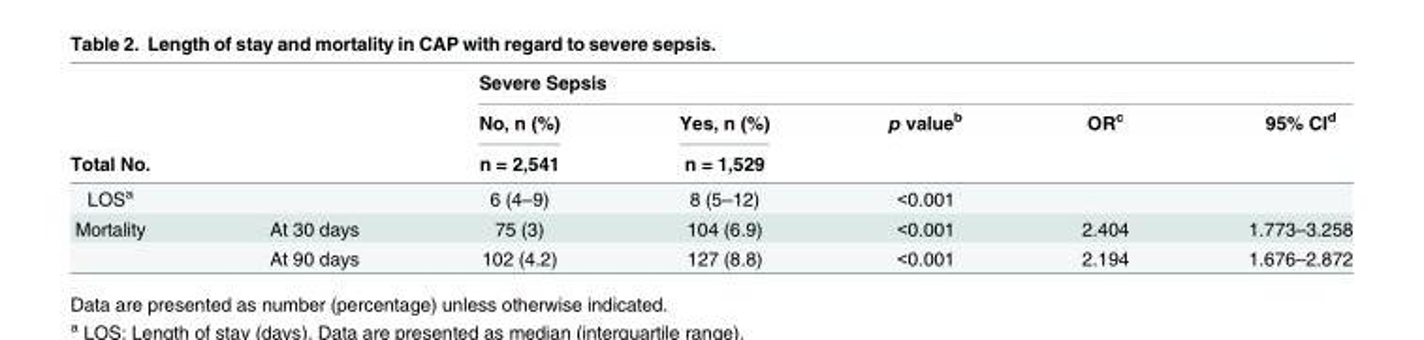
<table><thead><tr><td rowspan="3">Total No.</td><td rowspan="3"></td><td colspan="5">Severe Sepsis</td></tr><tr><td rowspan="2">No, n (%) n = 2,541</td><td rowspan="2">Yes, n (%) n = 1,529</td><td rowspan="2">p value<sup>b</sup></td><td rowspan="2">OR<sup>c</sup></td><td rowspan="2">95% CI<sup>d</sup></td></tr><tr></tr></thead><tbody><tr><td>LOS<sup>a</sup></td><td></td><td>6 (4–9)</td><td>8 (5–12)</td><td>&lt;0.001</td><td></td><td></td></tr><tr><td rowspan="2">Mortality</td><td>At 30 days</td><td>75 (3)</td><td>104 (6.9)</td><td>&lt;0.001</td><td>2.404</td><td>1.773–3.258</td></tr><tr><td>At 90 days</td><td>102 (4.2)</td><td>127 (8.8)</td><td>&lt;0.001</td><td>2.194</td><td>1.676–2.872</td></tr></tbody></table>